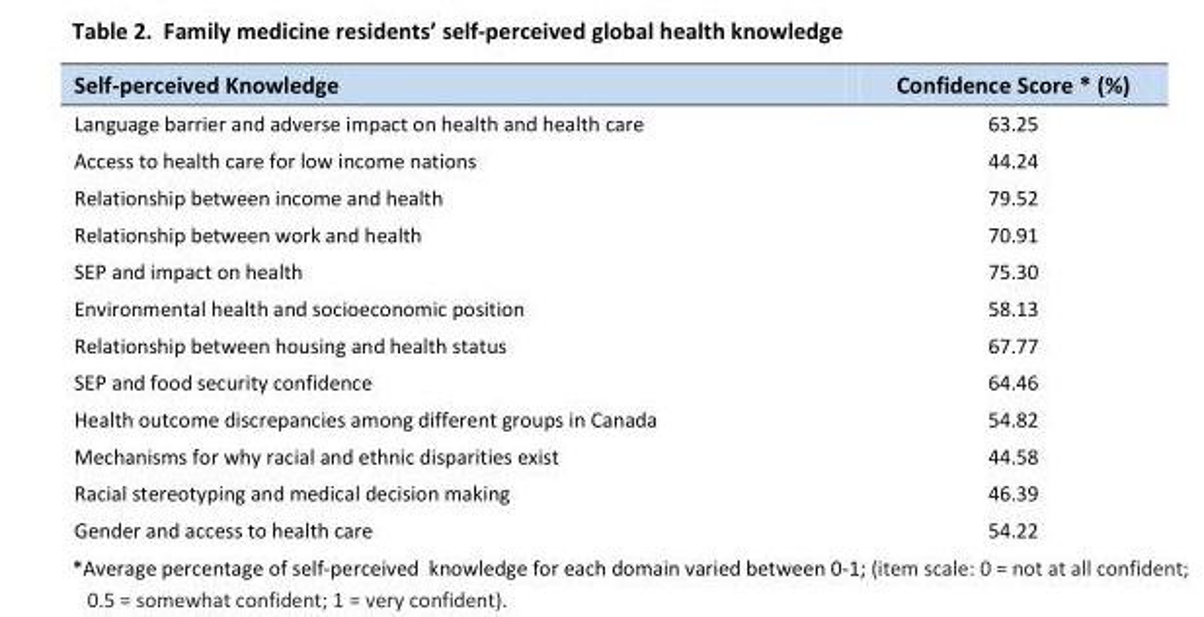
<table><thead><tr><td>Self-perceived Knowledge</td><td>Confidence Score * (%)</td></tr></thead><tbody><tr><td>Language barrier and adverse impact on health and health care</td><td>63.25</td></tr><tr><td>Access to health care for low income nations</td><td>44.24</td></tr><tr><td>Relationship between income and health</td><td>79.52</td></tr><tr><td>Relationship between work and health</td><td>70.91</td></tr><tr><td>SEP and impact on health</td><td>75.30</td></tr><tr><td>Environmental health and socioeconomic position</td><td>58.13</td></tr><tr><td>Relationship between housing and health status</td><td>67.77</td></tr><tr><td>SEP and food security confidence</td><td>64.46</td></tr><tr><td>Health outcome discrepancies among different groups in Canada</td><td>54.82</td></tr><tr><td>Mechanisms for why racial and ethnic disparities exist</td><td>44.58</td></tr><tr><td>Racial stereotyping and medical decision making</td><td>46.39</td></tr><tr><td>Gender and access to health care</td><td>54.22</td></tr></tbody></table>